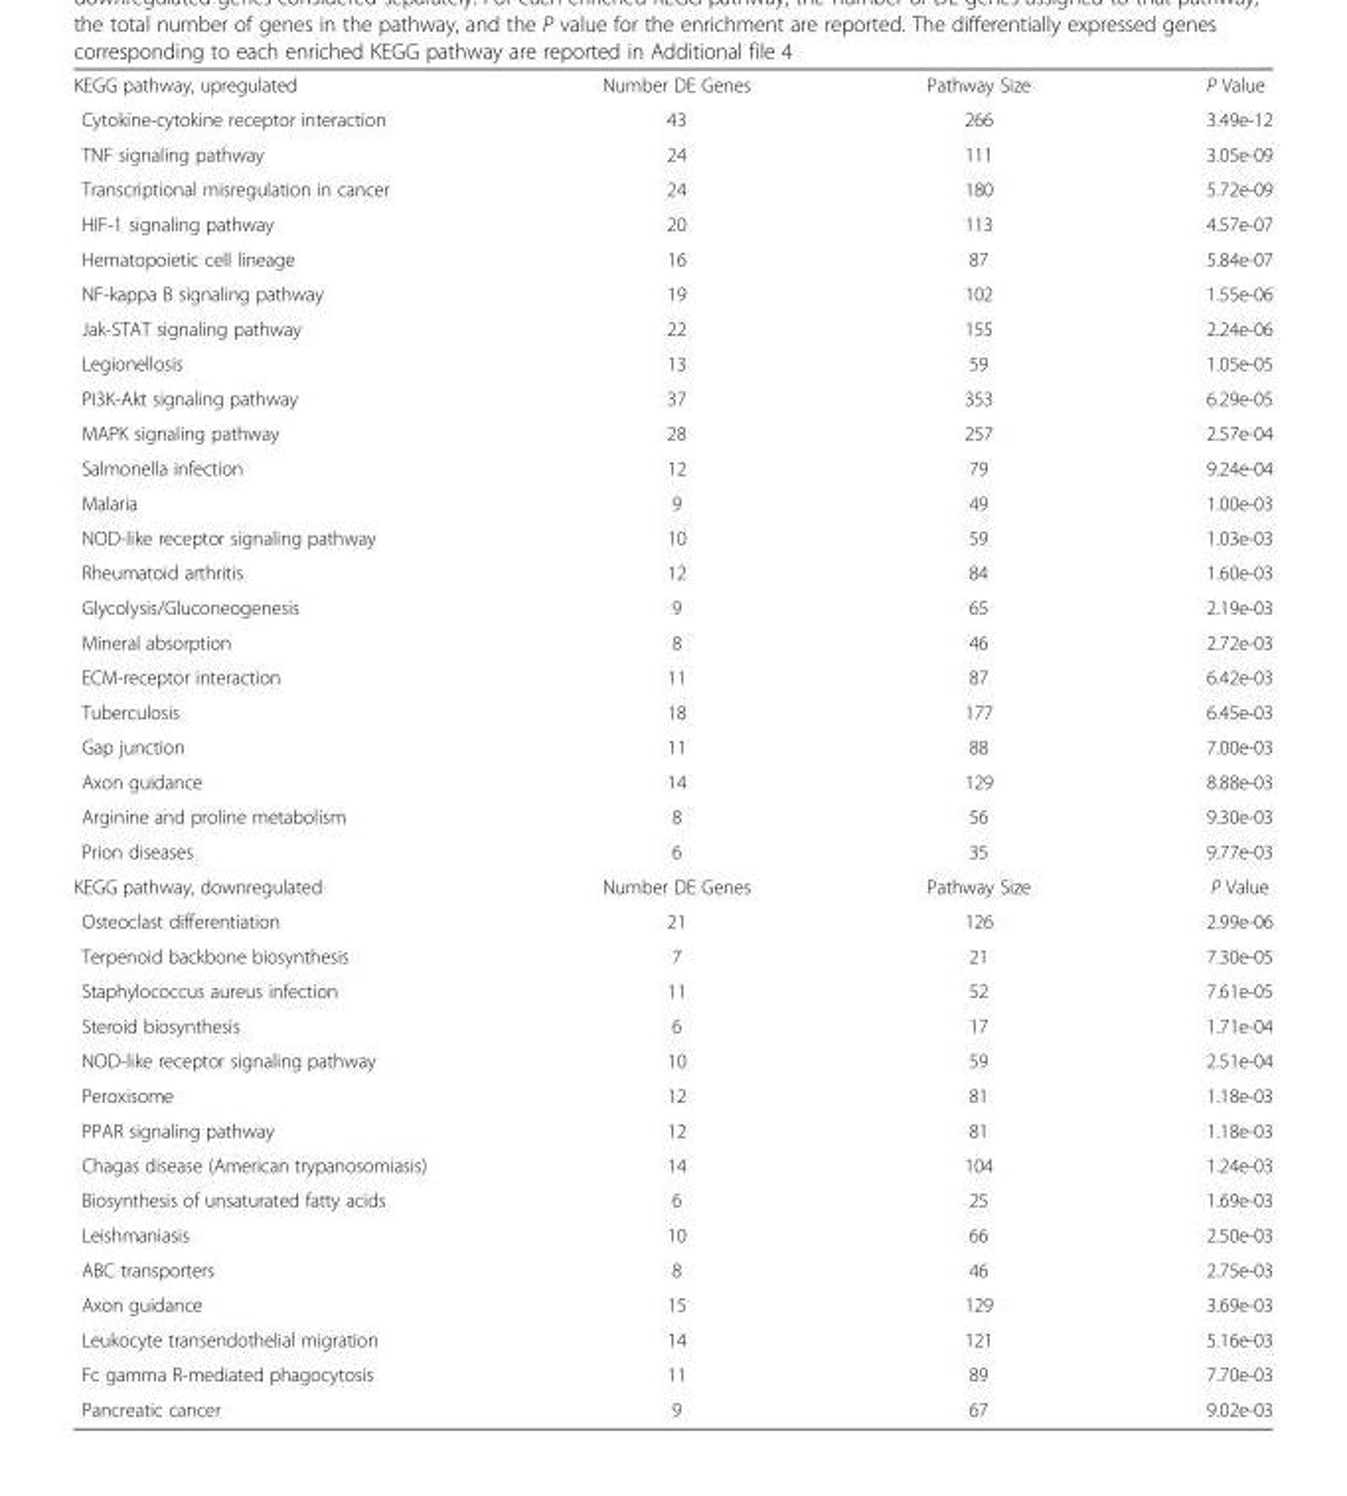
<table><tbody><tr><td>KEGG pathway, upregulated</td><td>Number DE Genes</td><td>Pathway Size</td><td>P Value</td></tr><tr><td>Cytokine-cytokine receptor interaction</td><td>43</td><td>266</td><td>3.49e-12</td></tr><tr><td>TNF signaling pathway</td><td>24</td><td>111</td><td>3.05e-09</td></tr><tr><td>Transcriptional misregulation in cancer</td><td>24</td><td>180</td><td>5.72e-09</td></tr><tr><td>HIF-1 signaling pathway</td><td>20</td><td>113</td><td>4.57e-07</td></tr><tr><td>Hematopoietic cell lineage</td><td>16</td><td>87</td><td>5.84e-07</td></tr><tr><td>NF-kappa B signaling pathway</td><td>19</td><td>102</td><td>1.55e-06</td></tr><tr><td>Jak-STAT signaling pathway</td><td>22</td><td>155</td><td>2.24e-06</td></tr><tr><td>Legionellosis</td><td>13</td><td>59</td><td>1.05e-05</td></tr><tr><td>PI3K-Akt signaling pathway</td><td>37</td><td>353</td><td>6.29e-05</td></tr><tr><td>MAPK signaling pathway</td><td>28</td><td>257</td><td>2.57e-04</td></tr><tr><td>Salmonella infection</td><td>12</td><td>79</td><td>9.24e-04</td></tr><tr><td>Malaria</td><td>9</td><td>49</td><td>1.00e-03</td></tr><tr><td>NOD-like receptor signaling pathway</td><td>10</td><td>59</td><td>1.03e-03</td></tr><tr><td>Rheumatoid arthritis</td><td>12</td><td>84</td><td>1.60e-03</td></tr><tr><td>Glycolysis/Gluconeogenesis</td><td>9</td><td>65</td><td>2.19e-03</td></tr><tr><td>Mineral absorption</td><td>8</td><td>46</td><td>2.72e-03</td></tr><tr><td>ECM-receptor interaction</td><td>11</td><td>87</td><td>6.42e-03</td></tr><tr><td>Tuberculosis</td><td>18</td><td>177</td><td>6.45e-03</td></tr><tr><td>Gap junction</td><td>11</td><td>88</td><td>7.00e-03</td></tr><tr><td>Axon guidance</td><td>14</td><td>129</td><td>8.88e-03</td></tr><tr><td>Arginine and proline metabolism</td><td>8</td><td>56</td><td>9.30e-03</td></tr><tr><td>Prion diseases</td><td>6</td><td>35</td><td>9.77e-03</td></tr><tr><td>KEGG pathway, downregulated</td><td>Number DE Genes</td><td>Pathway Size</td><td>P Value</td></tr><tr><td>Osteoclast differentiation</td><td>21</td><td>126</td><td>2.99e-06</td></tr><tr><td>Terpenoid backbone biosynthesis</td><td>7</td><td>21</td><td>7.30e-05</td></tr><tr><td>Staphylococcus aureus infection</td><td>11</td><td>52</td><td>7.61e-05</td></tr><tr><td>Steroid biosynthesis</td><td>6</td><td>17</td><td>1.71e-04</td></tr><tr><td>NOD-like receptor signaling pathway</td><td>10</td><td>59</td><td>2.51e-04</td></tr><tr><td>Peroxisome</td><td>12</td><td>81</td><td>1.18e-03</td></tr><tr><td>PPAR signaling pathway</td><td>12</td><td>81</td><td>1.18e-03</td></tr><tr><td>Chagas disease (American trypanosomiasis)</td><td>14</td><td>104</td><td>1.24e-03</td></tr><tr><td>Biosynthesis of unsaturated fatty acids</td><td>6</td><td>25</td><td>1.69e-03</td></tr><tr><td>Leishmaniasis</td><td>10</td><td>66</td><td>2.50e-03</td></tr><tr><td>ABC transporters</td><td>8</td><td>46</td><td>2.75e-03</td></tr><tr><td>Axon guidance</td><td>15</td><td>129</td><td>3.69e-03</td></tr><tr><td>Leukocyte transendothelial migration</td><td>14</td><td>121</td><td>5.16e-03</td></tr><tr><td>Fc gamma R-mediated phagocytosis</td><td>11</td><td>89</td><td>7.70e-03</td></tr><tr><td>Pancreatic cancer</td><td>9</td><td>67</td><td>9.02e-03</td></tr></tbody></table>